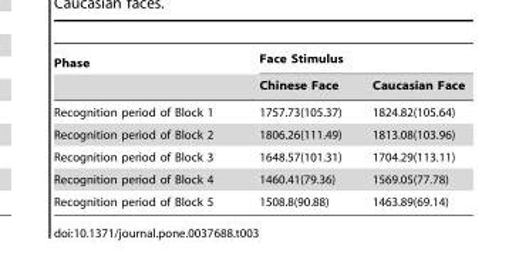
<table><thead><tr><td rowspan="2">Phase</td><td colspan="2">Face Stimulus</td></tr><tr><td>Chinese Face</td><td>Caucasian Face</td></tr></thead><tbody><tr><td>Recognition period of Block 1</td><td>1757.73(105.37)</td><td>1824.82(105.64)</td></tr><tr><td>Recognition period of Block 2</td><td>1806.26(111.49)</td><td>1813.08(103.96)</td></tr><tr><td>Recognition period of Block 3</td><td>1648.57(101.31)</td><td>1704.29(113.11)</td></tr><tr><td>Recognition period of Block 4</td><td>1460.41(79.36)</td><td>1569.05(77.78)</td></tr><tr><td>Recognition period of Block 5</td><td>1508.8(90.88)</td><td>1463.89(69.14)</td></tr></tbody></table>